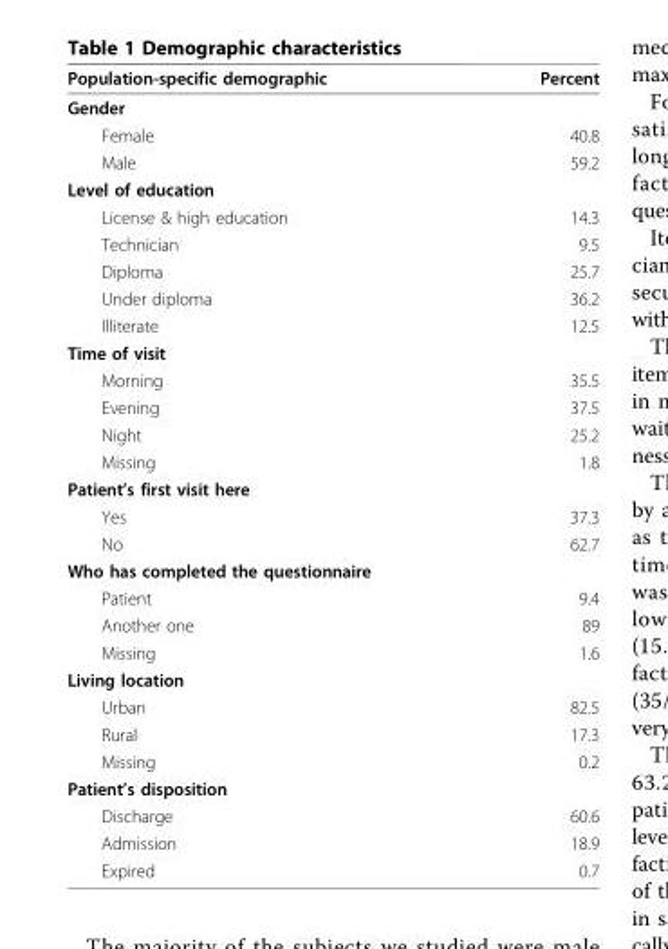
<table><thead><tr><td>Population-specific demographic</td><td>Percent</td></tr></thead><tbody><tr><td colspan="2">Gender</td></tr><tr><td>Female</td><td>40.8</td></tr><tr><td>Male</td><td>59.2</td></tr><tr><td colspan="2">Level of education</td></tr><tr><td>License &amp; high education</td><td>14.3</td></tr><tr><td>Technician</td><td>9.5</td></tr><tr><td>Diploma</td><td>25.7</td></tr><tr><td>Under diploma</td><td>36.2</td></tr><tr><td>Illiterate</td><td>12.5</td></tr><tr><td colspan="2">Time of visit</td></tr><tr><td>Morning</td><td>35.5</td></tr><tr><td>Evening</td><td>37.5</td></tr><tr><td>Night</td><td>25.2</td></tr><tr><td>Missing</td><td>1.8</td></tr><tr><td colspan="2">Patient’s first visit here</td></tr><tr><td>Yes</td><td>37.3</td></tr><tr><td>No</td><td>62.7</td></tr><tr><td colspan="2">Who has completed the questionnaire</td></tr><tr><td>Patient</td><td>9.4</td></tr><tr><td>Another one</td><td>89</td></tr><tr><td>Missing</td><td>1.6</td></tr><tr><td colspan="2">Living location</td></tr><tr><td>Urban</td><td>82.5</td></tr><tr><td>Rural</td><td>17.3</td></tr><tr><td>Missing</td><td>0.2</td></tr><tr><td colspan="2">Patient’s disposition</td></tr><tr><td>Discharge</td><td>60.6</td></tr><tr><td>Admission</td><td>18.9</td></tr><tr><td>Expired</td><td>0.7</td></tr></tbody></table>